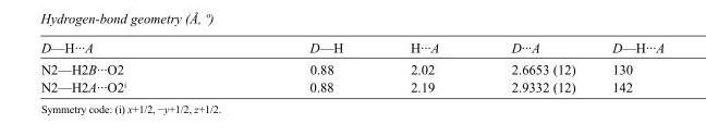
<table><tbody><tr><td>D—H···A</td><td>D—H</td><td>H···A</td><td>D···A</td><td>D—H···A</td></tr><tr><td>N2—H2B···O2</td><td>0.88</td><td>2.02</td><td>2.6653 (12)</td><td>130</td></tr><tr><td>N2—H2A···O2<sup>i</sup></td><td>0.88</td><td>2.19</td><td>2.9332 (12)</td><td>142</td></tr></tbody></table>